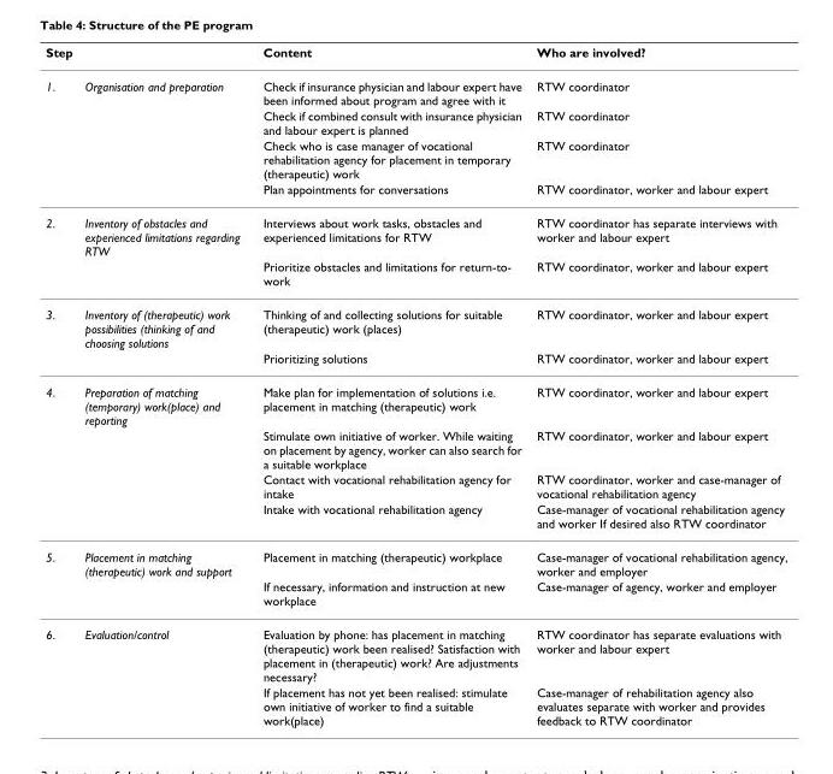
<table><thead><tr><td>Step</td><td></td><td>Content</td><td>Who are involved?</td></tr></thead><tbody><tr><td rowspan="4">1.</td><td>Organisation and preparation</td><td>Check if insurance physician and labour expert have been informed about program and agree with it</td><td>RTW coordinator</td></tr><tr><td></td><td>Check if combined consult with insurance physician and labour expert is planned</td><td>RTW coordinator</td></tr><tr><td></td><td>Check who is case manager of vocational rehabilitation agency for placement in temporary (therapeutic) work</td><td>RTW coordinator</td></tr><tr><td></td><td>Plan appointments for conversations</td><td>RTW coordinator, worker and labour expert</td></tr><tr><td rowspan="2">2.</td><td>Inventory of obstacles and experienced limitations regarding RTW</td><td>Interviews about work tasks, obstacles and experienced limitations for RTW</td><td>RTW coordinator has separate interviews with worker and labour expert</td></tr><tr><td></td><td>Prioritize obstacles and limitations for return-to- work</td><td>RTW coordinator, worker and labour expert</td></tr><tr><td rowspan="2">3.</td><td>Inventory of (therapeutic) work possibilities (thinking of and choosing solutions</td><td>Thinking of and collecting solutions for suitable (therapeutic) work (places)</td><td>RTW coordinator, worker and labour expert</td></tr><tr><td></td><td>Prioritizing solutions</td><td>RTW coordinator, worker and labour expert</td></tr><tr><td rowspan="4">4.</td><td>Preparation of matching (temporary) work(place) and reporting</td><td>Make plan for implementation of solutions i.e. placement in matching (therapeutic) work</td><td>RTW coordinator, worker and labour expert</td></tr><tr><td></td><td>Stimulate own initiative of worker. While waiting on placement by agency, worker can also search for a suitable workplace</td><td>RTW coordinator, worker and labour expert</td></tr><tr><td></td><td>Contact with vocational rehabilitation agency for intake</td><td>RTW coordinator, worker and case-manager of vocational rehabilitation agency</td></tr><tr><td></td><td>Intake with vocational rehabilitation agency</td><td>Case-manager of vocational rehabilitation agency and worker If desired also RTW coordinator</td></tr><tr><td rowspan="2">5.</td><td>Placement in matching (therapeutic) work and support</td><td>Placement in matching (therapeutic) workplace</td><td>Case-manager of vocational rehabilitation agency, worker and employer</td></tr><tr><td></td><td>If necessary, information and instruction at new workplace</td><td>Case-manager of agency, worker and employer</td></tr><tr><td rowspan="2">6.</td><td>Evaluation/control</td><td>Evaluation by phone: has placement in matching (therapeutic) work been realised? Satisfaction with placement in (therapeutic) work? Are adjustments necessary?</td><td>RTW coordinator has separate evaluations with worker and labour expert</td></tr><tr><td></td><td>If placement has not yet been realised: stimulate own initiative of worker to find a suitable work(place)</td><td>Case-manager of rehabilitation agency also evaluates separate with worker and provides feedback to RTW coordinator</td></tr></tbody></table>